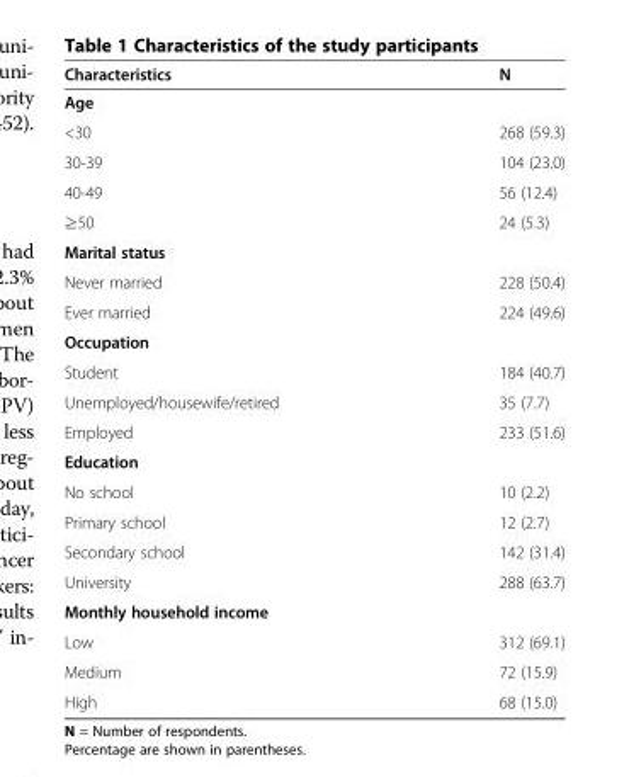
<table><thead><tr><td>Characteristics</td><td>N</td></tr></thead><tbody><tr><td colspan="2">Age</td></tr><tr><td>&lt;30</td><td>268 (59.3)</td></tr><tr><td>30-39</td><td>104 (23.0)</td></tr><tr><td>40-49</td><td>56 (12.4)</td></tr><tr><td>≥50</td><td>24 (5.3)</td></tr><tr><td colspan="2">Marital status</td></tr><tr><td>Never married</td><td>228 (50.4)</td></tr><tr><td>Ever married</td><td>224 (49.6)</td></tr><tr><td colspan="2">Occupation</td></tr><tr><td>Student</td><td>184 (40.7)</td></tr><tr><td>Unemployed/housewife/retired</td><td>35 (7.7)</td></tr><tr><td>Employed</td><td>233 (51.6)</td></tr><tr><td colspan="2">Education</td></tr><tr><td>No school</td><td>10 (2.2)</td></tr><tr><td>Primary school</td><td>12 (2.7)</td></tr><tr><td>Secondary school</td><td>142 (31.4)</td></tr><tr><td>University</td><td>288 (63.7)</td></tr><tr><td colspan="2">Monthly household income</td></tr><tr><td>Low</td><td>312 (69.1)</td></tr><tr><td>Medium</td><td>72 (15.9)</td></tr><tr><td>High</td><td>68 (15.0)</td></tr></tbody></table>